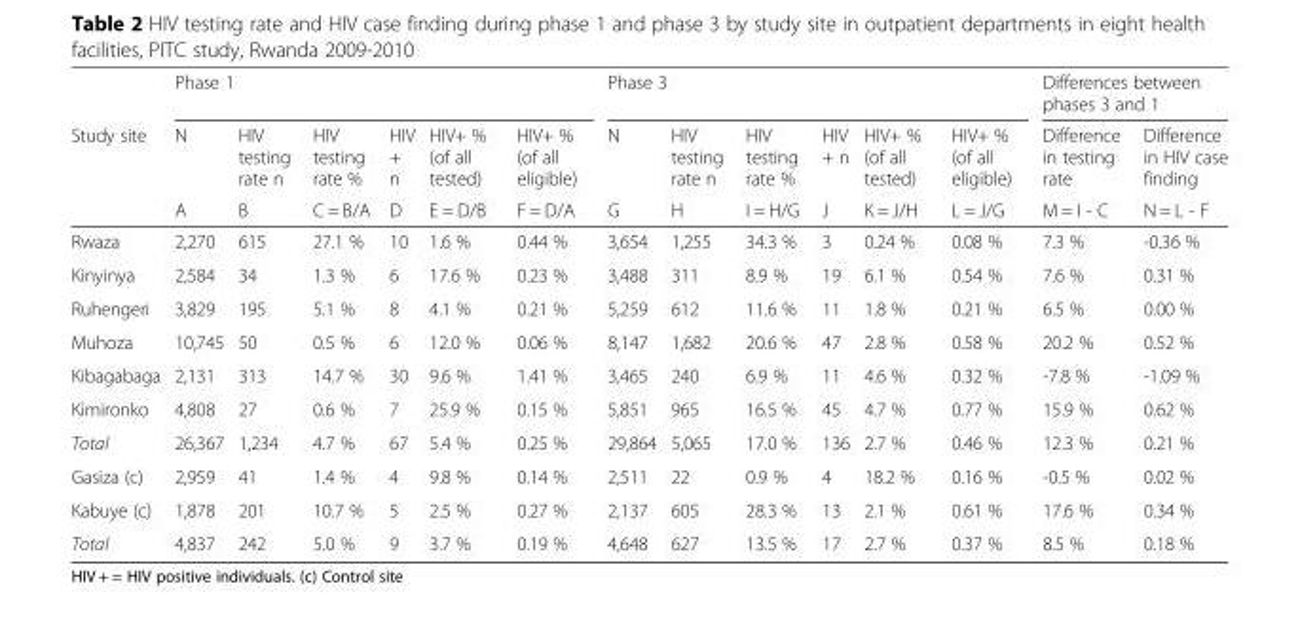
<table><thead><tr><td rowspan="3">Study site</td><td colspan="6">Phase 1</td><td colspan="6">Phase 3</td><td colspan="2">Differences between phases 3 and 1</td></tr><tr><td rowspan="2">N A</td><td rowspan="2">HIV testing rate n B</td><td rowspan="2">HIV testing rate % C = B/A</td><td rowspan="2">HIV + n D</td><td rowspan="2">HIV+ % (of all tested) E = D/B</td><td rowspan="2">HIV+ % (of all eligible) F = D/A</td><td rowspan="2">N G</td><td rowspan="2">HIV testing rate n H</td><td rowspan="2">HIV testing rate % I = H/G</td><td rowspan="2">HIV + n J</td><td rowspan="2">HIV+ % (of all tested) K = J/H</td><td rowspan="2">HIV+ % (of all eligible) L = J/G</td><td rowspan="2">Difference in testing rate M = I - C</td><td rowspan="2">Difference in HIV case finding N = L - F</td></tr><tr></tr></thead><tbody><tr><td>Rwaza</td><td>2,270</td><td>615</td><td>27.1 %</td><td>10</td><td>1.6 %</td><td>0.44 %</td><td>3,654</td><td>1,255</td><td>34.3 %</td><td>3</td><td>0.24 %</td><td>0.08 %</td><td>7.3 %</td><td>-0.36 %</td></tr><tr><td>Kinyinya</td><td>2,584</td><td>34</td><td>1.3 %</td><td>6</td><td>17.6 %</td><td>0.23 %</td><td>3,488</td><td>311</td><td>8.9 %</td><td>19</td><td>6.1 %</td><td>0.54 %</td><td>7.6 %</td><td>0.31 %</td></tr><tr><td>Ruhengeri</td><td>3,829</td><td>195</td><td>5.1 %</td><td>8</td><td>4.1 %</td><td>0.21 %</td><td>5,259</td><td>612</td><td>11.6 %</td><td>11</td><td>1.8 %</td><td>0.21 %</td><td>6.5 %</td><td>0.00 %</td></tr><tr><td>Muhoza</td><td>10,745</td><td>50</td><td>0.5 %</td><td>6</td><td>12.0 %</td><td>0.06 %</td><td>8,147</td><td>1,682</td><td>20.6 %</td><td>47</td><td>2.8 %</td><td>0.58 %</td><td>20.2 %</td><td>0.52 %</td></tr><tr><td>Kibagabaga</td><td>2,131</td><td>313</td><td>14.7 %</td><td>30</td><td>9.6 %</td><td>1.41 %</td><td>3,465</td><td>240</td><td>6.9 %</td><td>11</td><td>4.6 %</td><td>0.32 %</td><td>-7.8 %</td><td>-1.09 %</td></tr><tr><td>Kimironko</td><td>4,808</td><td>27</td><td>0.6 %</td><td>7</td><td>25.9 %</td><td>0.15 %</td><td>5,851</td><td>965</td><td>16.5 %</td><td>45</td><td>4.7 %</td><td>0.77 %</td><td>15.9 %</td><td>0.62 %</td></tr><tr><td>Total</td><td>26,367</td><td>1,234</td><td>4.7 %</td><td>67</td><td>5.4 %</td><td>0.25 %</td><td>29,864</td><td>5,065</td><td>17.0 %</td><td>136</td><td>2.7 %</td><td>0.46 %</td><td>12.3 %</td><td>0.21 %</td></tr><tr><td>Gasiza (c)</td><td>2,959</td><td>41</td><td>1.4 %</td><td>4</td><td>9.8 %</td><td>0.14 %</td><td>2,511</td><td>22</td><td>0.9 %</td><td>4</td><td>18.2 %</td><td>0.16 %</td><td>-0.5 %</td><td>0.02 %</td></tr><tr><td>Kabuye (c)</td><td>1,878</td><td>201</td><td>10.7 %</td><td>5</td><td>2.5 %</td><td>0.27 %</td><td>2,137</td><td>605</td><td>28.3 %</td><td>13</td><td>2.1 %</td><td>0.61 %</td><td>17.6 %</td><td>0.34 %</td></tr><tr><td>Total</td><td>4,837</td><td>242</td><td>5.0 %</td><td>9</td><td>3.7 %</td><td>0.19 %</td><td>4,648</td><td>627</td><td>13.5 %</td><td>17</td><td>2.7 %</td><td>0.37 %</td><td>8.5 %</td><td>0.18 %</td></tr></tbody></table>